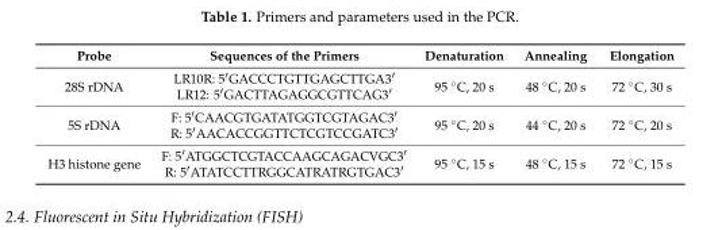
<table><thead><tr><td>Probe</td><td>Sequences of the Primers</td><td>Denaturation</td><td>Annealing</td><td>Elongation</td></tr></thead><tbody><tr><td>28S rDNA</td><td>LR10R: 5′GACCCTGTTGAGCTTGA3′ LR12: 5′GACTTAGAGGCGTTCAG3′</td><td>95 ◦C, 20 s</td><td>48 ◦C, 20 s</td><td>72 ◦C, 30 s</td></tr><tr><td>5S rDNA</td><td>F: 5′CAACGTGATATGGTCGTAGAC3′ R: 5′AACACCGGTTCTCGTCCGATC3′</td><td>95 ◦C, 20 s</td><td>44 ◦C, 20 s</td><td>72 ◦C, 20 s</td></tr><tr><td>H3 histone gene</td><td>F: 5′ATGGCTCGTACCAAGCAGACVGC3′ R: 5′ATATCCTTRGGCATRATRGTGAC3′</td><td>95 ◦C, 15 s</td><td>48 ◦C, 15 s</td><td>72 ◦C, 15 s</td></tr></tbody></table>